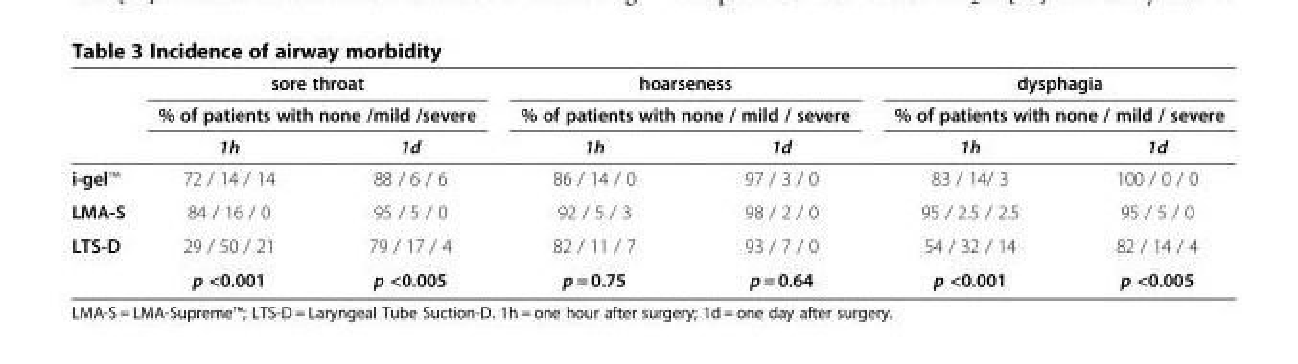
<table><thead><tr><td rowspan="3"></td><td rowspan="2" colspan="2">sore throat % of patients with none /mild /severe</td><td rowspan="2" colspan="2">hoarseness % of patients with none / mild / severe</td><td rowspan="2" colspan="2">dysphagia % of patients with none / mild / severe</td></tr><tr></tr><tr><td>1h</td><td>1d</td><td>1h</td><td>1d</td><td>1h</td><td>1d</td></tr></thead><tbody><tr><td>i-gel™</td><td>72 / 14 / 14</td><td>88 / 6 / 6</td><td>86 / 14 / 0</td><td>97 / 3 / 0</td><td>83 / 14/ 3</td><td>100 / 0 / 0</td></tr><tr><td>LMA-S</td><td>84 / 16 / 0</td><td>95 / 5 / 0</td><td>92 / 5 / 3</td><td>98 / 2 / 0</td><td>95 / 2.5 / 2.5</td><td>95 / 5 / 0</td></tr><tr><td rowspan="2">LTS-D</td><td>29 / 50 / 21</td><td>79 / 17 / 4</td><td>82 / 11 / 7</td><td>93 / 7 / 0</td><td>54 / 32 / 14</td><td>82 / 14 / 4</td></tr><tr><td>p &lt;0.001</td><td>p &lt;0.005</td><td>p = 0.75</td><td>p = 0.64</td><td>p &lt;0.001</td><td>p &lt;0.005</td></tr></tbody></table>